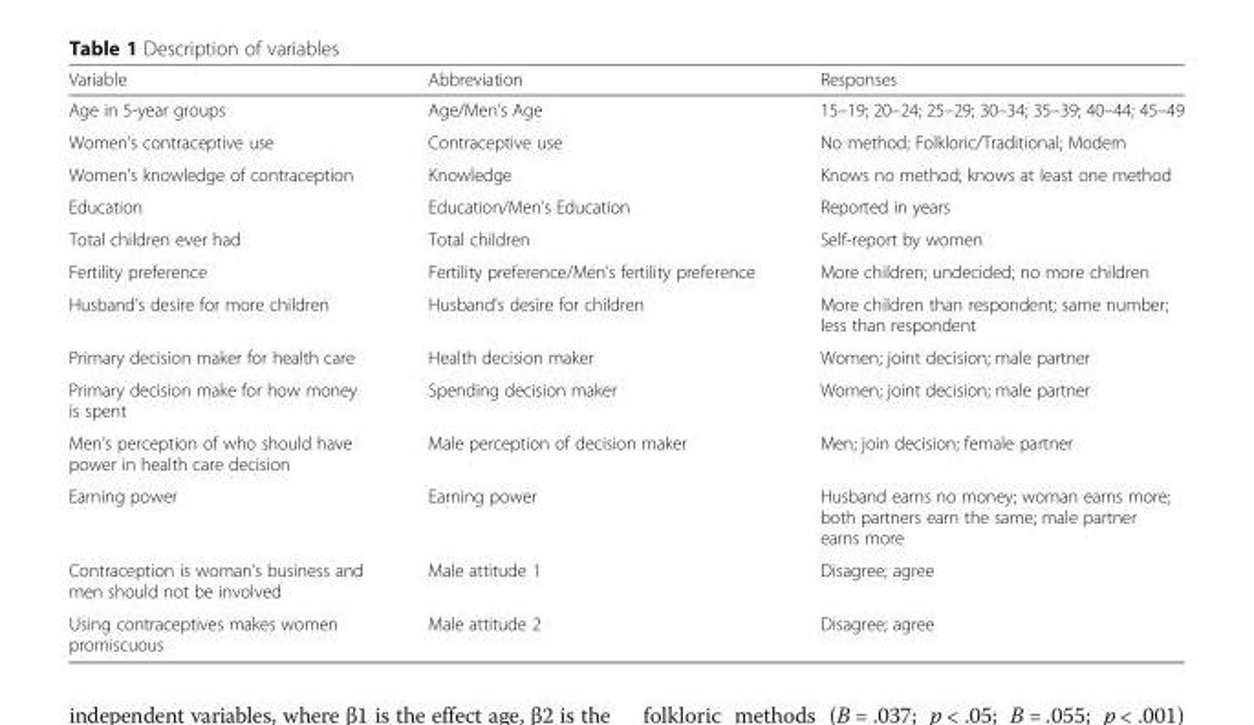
<table><thead><tr><td>Variable</td><td>Abbreviation</td><td>Responses</td></tr></thead><tbody><tr><td>Age in 5-year groups</td><td>Age/Men’s Age</td><td>15–19; 20–24; 25–29; 30–34; 35–39; 40–44; 45–49</td></tr><tr><td>Women’s contraceptive use</td><td>Contraceptive use</td><td>No method; Folkloric/Traditional; Modern</td></tr><tr><td>Women’s knowledge of contraception</td><td>Knowledge</td><td>Knows no method; knows at least one method</td></tr><tr><td>Education</td><td>Education/Men’s Education</td><td>Reported in years</td></tr><tr><td>Total children ever had</td><td>Total children</td><td>Self-report by women</td></tr><tr><td>Fertility preference</td><td>Fertility preference/Men’s fertility preference</td><td>More children; undecided; no more children</td></tr><tr><td>Husband’s desire for more children</td><td>Husband’s desire for children</td><td>More children than respondent; same number; less than respondent</td></tr><tr><td>Primary decision maker for health care</td><td>Health decision maker</td><td>Women; joint decision; male partner</td></tr><tr><td>Primary decision make for how money is spent</td><td>Spending decision maker</td><td>Women; joint decision; male partner</td></tr><tr><td>Men’s perception of who should have power in health care decision</td><td>Male perception of decision maker</td><td>Men; join decision; female partner</td></tr><tr><td>Earning power</td><td>Earning power</td><td>Husband earns no money; woman earns more; both partners earn the same; male partner earns more</td></tr><tr><td>Contraception is woman’s business and men should not be involved</td><td>Male attitude 1</td><td>Disagree; agree</td></tr><tr><td>Using contraceptives makes women promiscuous</td><td>Male attitude 2</td><td>Disagree; agree</td></tr></tbody></table>